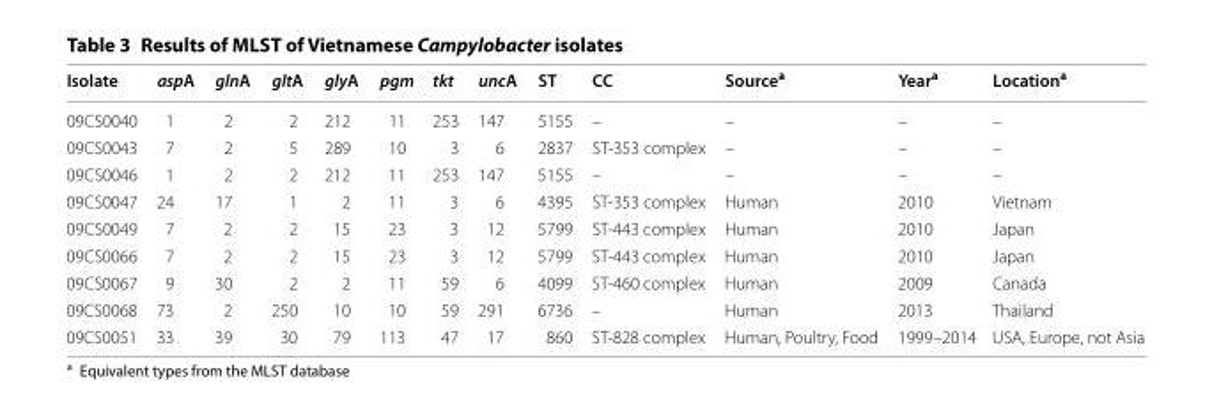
<table><thead><tr><td>Isolate</td><td>aspA</td><td>glnA</td><td>gltA</td><td>glyA</td><td>pgm</td><td>tkt</td><td>uncA</td><td>ST</td><td>CC</td><td>Source<sup>a</sup></td><td>Year<sup>a</sup></td><td>Location<sup>a</sup></td></tr></thead><tbody><tr><td>09CS0040</td><td>1</td><td>2</td><td>2</td><td>212</td><td>11</td><td>253</td><td>147</td><td>5155</td><td>–</td><td>–</td><td>–</td><td>–</td></tr><tr><td>09CS0043</td><td>7</td><td>2</td><td>5</td><td>289</td><td>10</td><td>3</td><td>6</td><td>2837</td><td>ST‑353 complex</td><td>–</td><td>–</td><td>–</td></tr><tr><td>09CS0046</td><td>1</td><td>2</td><td>2</td><td>212</td><td>11</td><td>253</td><td>147</td><td>5155</td><td>–</td><td>–</td><td>–</td><td>–</td></tr><tr><td>09CS0047</td><td>24</td><td>17</td><td>1</td><td>2</td><td>11</td><td>3</td><td>6</td><td>4395</td><td>ST‑353 complex</td><td>Human</td><td>2010</td><td>Vietnam</td></tr><tr><td>09CS0049</td><td>7</td><td>2</td><td>2</td><td>15</td><td>23</td><td>3</td><td>12</td><td>5799</td><td>ST‑443 complex</td><td>Human</td><td>2010</td><td>Japan</td></tr><tr><td>09CS0066</td><td>7</td><td>2</td><td>2</td><td>15</td><td>23</td><td>3</td><td>12</td><td>5799</td><td>ST‑443 complex</td><td>Human</td><td>2010</td><td>Japan</td></tr><tr><td>09CS0067</td><td>9</td><td>30</td><td>2</td><td>2</td><td>11</td><td>59</td><td>6</td><td>4099</td><td>ST‑460 complex</td><td>Human</td><td>2009</td><td>Canada</td></tr><tr><td>09CS0068</td><td>73</td><td>2</td><td>250</td><td>10</td><td>10</td><td>59</td><td>291</td><td>6736</td><td>–</td><td>Human</td><td>2013</td><td>Thailand</td></tr><tr><td>09CS0051</td><td>33</td><td>39</td><td>30</td><td>79</td><td>113</td><td>47</td><td>17</td><td>860</td><td>ST‑828 complex</td><td>Human, Poultry, Food</td><td>1999–2014</td><td>USA, Europe, not Asia</td></tr></tbody></table>